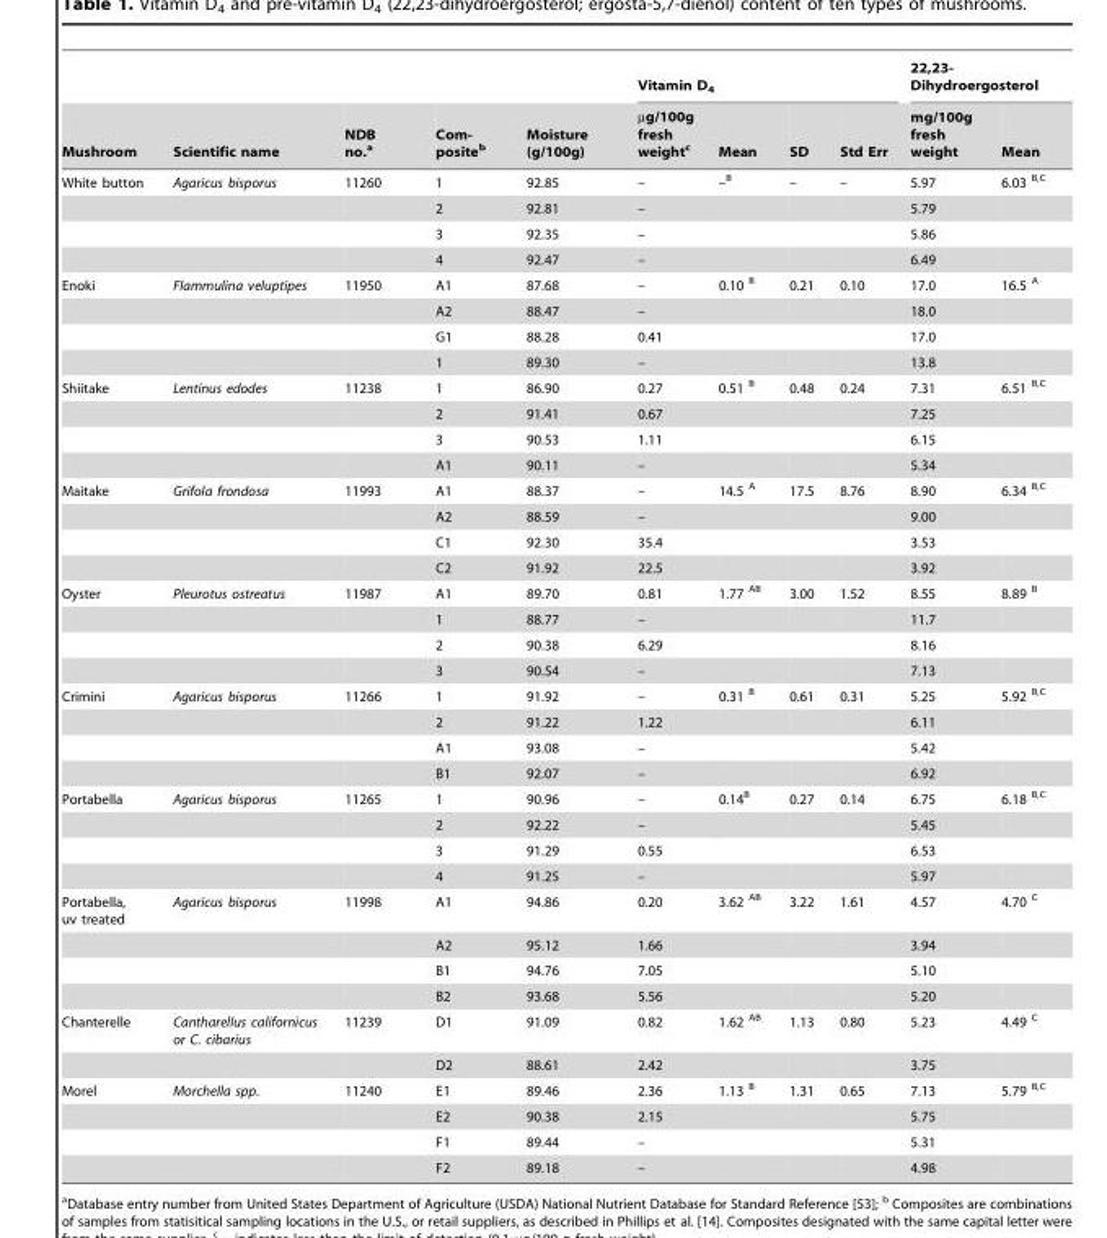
<table><thead><tr><td rowspan="2">Mushroom</td><td rowspan="2">Scientific name</td><td rowspan="2">NDB no.<sup>a</sup></td><td rowspan="2">Com- posite<sup>b</sup></td><td rowspan="2">Moisture (g/100g)</td><td colspan="4">Vitamin D<sub>4</sub></td><td colspan="2">22,23- Dihydroergosterol</td></tr><tr><td>µg/100g fresh weight<sup>c</sup></td><td>Mean</td><td>SD</td><td>Std Err</td><td>mg/100g fresh weight</td><td>Mean</td></tr></thead><tbody><tr><td rowspan="4">White button</td><td>Agaricus bisporus</td><td>11260</td><td>1</td><td>92.85</td><td>–</td><td>–<sup>B</sup></td><td>–</td><td>–</td><td>5.97</td><td>6.03 <sup>B,C</sup></td></tr><tr><td></td><td></td><td>2</td><td>92.81</td><td>–</td><td></td><td></td><td></td><td>5.79</td><td></td></tr><tr><td></td><td></td><td>3</td><td>92.35</td><td>–</td><td></td><td></td><td></td><td>5.86</td><td></td></tr><tr><td></td><td></td><td>4</td><td>92.47</td><td>–</td><td></td><td></td><td></td><td>6.49</td><td></td></tr><tr><td rowspan="4">Enoki</td><td>Flammulina veluptipes</td><td>11950</td><td>A1</td><td>87.68</td><td>–</td><td>0.10 <sup>B</sup></td><td>0.21</td><td>0.10</td><td>17.0</td><td>16.5 <sup>A</sup></td></tr><tr><td></td><td></td><td>A2</td><td>88.47</td><td>–</td><td></td><td></td><td></td><td>18.0</td><td></td></tr><tr><td></td><td></td><td>G1</td><td>88.28</td><td>0.41</td><td></td><td></td><td></td><td>17.0</td><td></td></tr><tr><td></td><td></td><td>1</td><td>89.30</td><td>–</td><td></td><td></td><td></td><td>13.8</td><td></td></tr><tr><td rowspan="4">Shiitake</td><td>Lentinus edodes</td><td>11238</td><td>1</td><td>86.90</td><td>0.27</td><td>0.51 <sup>B</sup></td><td>0.48</td><td>0.24</td><td>7.31</td><td>6.51 <sup>B,C</sup></td></tr><tr><td></td><td></td><td>2</td><td>91.41</td><td>0.67</td><td></td><td></td><td></td><td>7.25</td><td></td></tr><tr><td></td><td></td><td>3</td><td>90.53</td><td>1.11</td><td></td><td></td><td></td><td>6.15</td><td></td></tr><tr><td></td><td></td><td>A1</td><td>90.11</td><td>–</td><td></td><td></td><td></td><td>5.34</td><td></td></tr><tr><td rowspan="4">Maitake</td><td>Grifola frondosa</td><td>11993</td><td>A1</td><td>88.37</td><td>–</td><td>14.5 <sup>A</sup></td><td>17.5</td><td>8.76</td><td>8.90</td><td>6.34 <sup>B,C</sup></td></tr><tr><td></td><td></td><td>A2</td><td>88.59</td><td>–</td><td></td><td></td><td></td><td>9.00</td><td></td></tr><tr><td></td><td></td><td>C1</td><td>92.30</td><td>35.4</td><td></td><td></td><td></td><td>3.53</td><td></td></tr><tr><td></td><td></td><td>C2</td><td>91.92</td><td>22.5</td><td></td><td></td><td></td><td>3.92</td><td></td></tr><tr><td rowspan="4">Oyster</td><td>Pleurotus ostreatus</td><td>11987</td><td>A1</td><td>89.70</td><td>0.81</td><td>1.77 <sup>AB</sup></td><td>3.00</td><td>1.52</td><td>8.55</td><td>8.89 <sup>B</sup></td></tr><tr><td></td><td></td><td>1</td><td>88.77</td><td>–</td><td></td><td></td><td></td><td>11.7</td><td></td></tr><tr><td></td><td></td><td>2</td><td>90.38</td><td>6.29</td><td></td><td></td><td></td><td>8.16</td><td></td></tr><tr><td></td><td></td><td>3</td><td>90.54</td><td>–</td><td></td><td></td><td></td><td>7.13</td><td></td></tr><tr><td rowspan="4">Crimini</td><td>Agaricus bisporus</td><td>11266</td><td>1</td><td>91.92</td><td>–</td><td>0.31 <sup>B</sup></td><td>0.61</td><td>0.31</td><td>5.25</td><td>5.92 <sup>B,C</sup></td></tr><tr><td></td><td></td><td>2</td><td>91.22</td><td>1.22</td><td></td><td></td><td></td><td>6.11</td><td></td></tr><tr><td></td><td></td><td>A1</td><td>93.08</td><td>–</td><td></td><td></td><td></td><td>5.42</td><td></td></tr><tr><td></td><td></td><td>B1</td><td>92.07</td><td>–</td><td></td><td></td><td></td><td>6.92</td><td></td></tr><tr><td rowspan="4">Portabella</td><td>Agaricus bisporus</td><td>11265</td><td>1</td><td>90.96</td><td>–</td><td>0.14<sup>B</sup></td><td>0.27</td><td>0.14</td><td>6.75</td><td>6.18 <sup>B,C</sup></td></tr><tr><td></td><td></td><td>2</td><td>92.22</td><td>–</td><td></td><td></td><td></td><td>5.45</td><td></td></tr><tr><td></td><td></td><td>3</td><td>91.29</td><td>0.55</td><td></td><td></td><td></td><td>6.53</td><td></td></tr><tr><td></td><td></td><td>4</td><td>91.25</td><td>–</td><td></td><td></td><td></td><td>5.97</td><td></td></tr><tr><td rowspan="4">Portabella, uv treated</td><td>Agaricus bisporus</td><td>11998</td><td>A1</td><td>94.86</td><td>0.20</td><td>3.62 <sup>AB</sup></td><td>3.22</td><td>1.61</td><td>4.57</td><td>4.70 <sup>C</sup></td></tr><tr><td></td><td></td><td>A2</td><td>95.12</td><td>1.66</td><td></td><td></td><td></td><td>3.94</td><td></td></tr><tr><td></td><td></td><td>B1</td><td>94.76</td><td>7.05</td><td></td><td></td><td></td><td>5.10</td><td></td></tr><tr><td></td><td></td><td>B2</td><td>93.68</td><td>5.56</td><td></td><td></td><td></td><td>5.20</td><td></td></tr><tr><td rowspan="2">Chanterelle</td><td>Cantharellus californicus or C. cibarius</td><td>11239</td><td>D1</td><td>91.09</td><td>0.82</td><td>1.62 <sup>AB</sup></td><td>1.13</td><td>0.80</td><td>5.23</td><td>4.49 <sup>C</sup></td></tr><tr><td></td><td></td><td>D2</td><td>88.61</td><td>2.42</td><td></td><td></td><td></td><td>3.75</td><td></td></tr><tr><td rowspan="4">Morel</td><td>Morchella spp.</td><td>11240</td><td>E1</td><td>89.46</td><td>2.36</td><td>1.13 <sup>B</sup></td><td>1.31</td><td>0.65</td><td>7.13</td><td>5.79 <sup>B,C</sup></td></tr><tr><td></td><td></td><td>E2</td><td>90.38</td><td>2.15</td><td></td><td></td><td></td><td>5.75</td><td></td></tr><tr><td></td><td></td><td>F1</td><td>89.44</td><td>–</td><td></td><td></td><td></td><td>5.31</td><td></td></tr><tr><td></td><td></td><td>F2</td><td>89.18</td><td>–</td><td></td><td></td><td></td><td>4.98</td><td></td></tr></tbody></table>